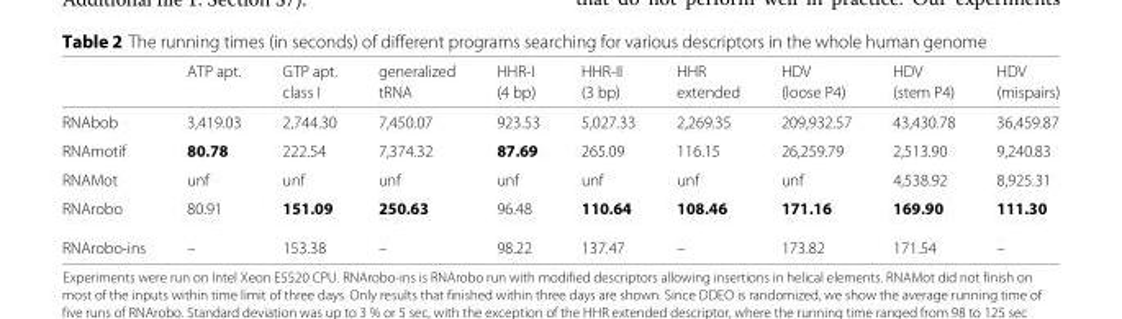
<table><thead><tr><td rowspan="2"></td><td rowspan="2">ATP apt.</td><td rowspan="2">GTP apt. class I</td><td rowspan="2">generalized tRNA</td><td rowspan="2">HHR-I (4 bp)</td><td rowspan="2">HHR-II (3 bp)</td><td rowspan="2">HHR extended</td><td rowspan="2">HDV (loose P4)</td><td rowspan="2">HDV (stem P4)</td><td rowspan="2">HDV (mispairs)</td></tr><tr></tr></thead><tbody><tr><td>RNAbob</td><td>3,419.03</td><td>2,744.30</td><td>7,450.07</td><td>923.53</td><td>5,027.33</td><td>2,269.35</td><td>209,932.57</td><td>43,430.78</td><td>36,459.87</td></tr><tr><td>RNAmotif</td><td>80.78</td><td>222.54</td><td>7,374.32</td><td>87.69</td><td>265.09</td><td>116.15</td><td>26,259.79</td><td>2,513.90</td><td>9,240.83</td></tr><tr><td>RNAMot</td><td>unf</td><td>unf</td><td>unf</td><td>unf</td><td>unf</td><td>unf</td><td>unf</td><td>4,538.92</td><td>8,925.31</td></tr><tr><td>RNArobo</td><td>80.91</td><td>151.09</td><td>250.63</td><td>96.48</td><td>110.64</td><td>108.46</td><td>171.16</td><td>169.90</td><td>111.30</td></tr><tr><td>RNArobo-ins</td><td>–</td><td>153.38</td><td>–</td><td>98.22</td><td>137.47</td><td>–</td><td>173.82</td><td>171.54</td><td>–</td></tr></tbody></table>